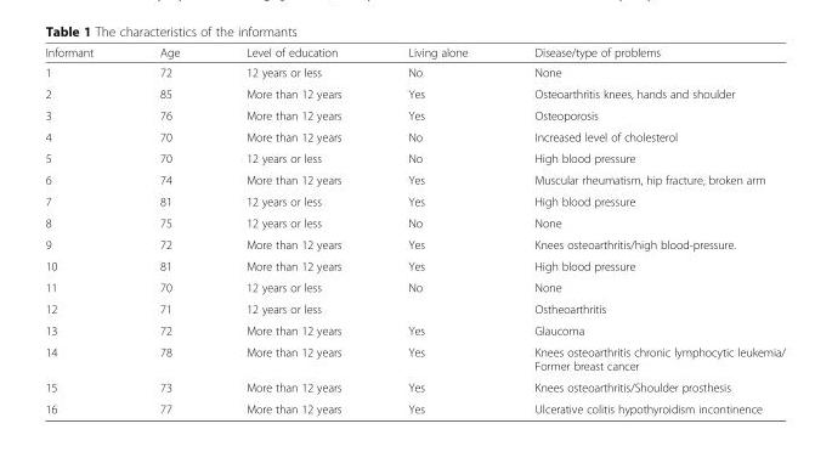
<table><thead><tr><td>Informant</td><td>Age</td><td>Level of education</td><td>Living alone</td><td>Disease/type of problems</td></tr></thead><tbody><tr><td>1</td><td>72</td><td>12 years or less</td><td>No</td><td>None</td></tr><tr><td>2</td><td>85</td><td>More than 12 years</td><td>Yes</td><td>Osteoarthritis knees, hands and shoulder</td></tr><tr><td>3</td><td>76</td><td>More than 12 years</td><td>Yes</td><td>Osteoporosis</td></tr><tr><td>4</td><td>70</td><td>More than 12 years</td><td>No</td><td>Increased level of cholesterol</td></tr><tr><td>5</td><td>70</td><td>12 years or less</td><td>No</td><td>High blood pressure</td></tr><tr><td>6</td><td>74</td><td>More than 12 years</td><td>Yes</td><td>Muscular rheumatism, hip fracture, broken arm</td></tr><tr><td>7</td><td>81</td><td>12 years or less</td><td>Yes</td><td>High blood pressure</td></tr><tr><td>8</td><td>75</td><td>12 years or less</td><td>No</td><td>None</td></tr><tr><td>9</td><td>72</td><td>More than 12 years</td><td>Yes</td><td>Knees osteoarthritis/high blood-pressure.</td></tr><tr><td>10</td><td>81</td><td>More than 12 years</td><td>Yes</td><td>High blood pressure</td></tr><tr><td>11</td><td>70</td><td>12 years or less</td><td>No</td><td>None</td></tr><tr><td>12</td><td>71</td><td>12 years or less</td><td></td><td>Ostheoarthritis</td></tr><tr><td>13</td><td>72</td><td>More than 12 years</td><td>Yes</td><td>Glaucoma</td></tr><tr><td>14</td><td>78</td><td>More than 12 years</td><td>Yes</td><td>Knees osteoarthritis chronic lymphocytic leukemia/ Former breast cancer</td></tr><tr><td>15</td><td>73</td><td>More than 12 years</td><td>Yes</td><td>Knees osteoarthritis/Shoulder prosthesis</td></tr><tr><td>16</td><td>77</td><td>More than 12 years</td><td>Yes</td><td>Ulcerative colitis hypothyroidism incontinence</td></tr></tbody></table>